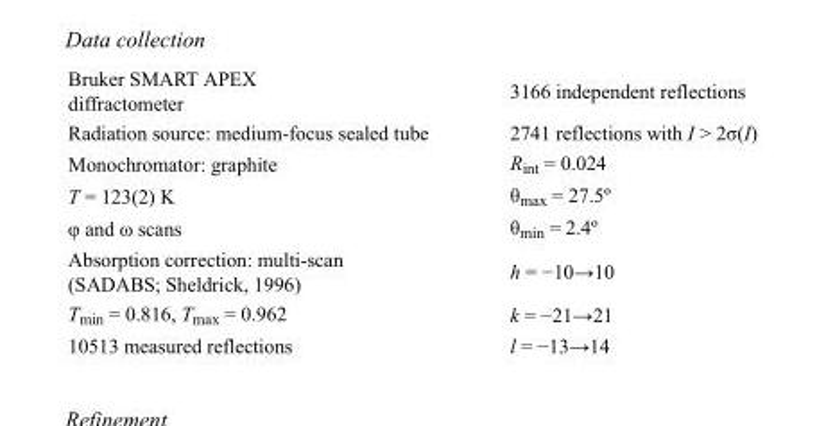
<table><tbody><tr><td>Bruker SMART APEX diffractometer</td><td>3166 independent reflections</td></tr><tr><td>Radiation source: medium-focus sealed tube</td><td>2741 reflections with I &gt; 2σ(I)</td></tr><tr><td>Monochromator: graphite</td><td>R<sub>int</sub> = 0.024</td></tr><tr><td>T = 123(2) K</td><td>θ<sub>max</sub> = 27.5º</td></tr><tr><td>φ and ω scans</td><td>θ<sub>min</sub> = 2.4º</td></tr><tr><td>Absorption correction: multi-scan (SADABS; Sheldrick, 1996)</td><td>h = −10→10</td></tr><tr><td>T<sub>min</sub> = 0.816, T<sub>max</sub> = 0.962</td><td>k = −21→21</td></tr><tr><td>10513 measured reflections</td><td>l = −13→14</td></tr></tbody></table>